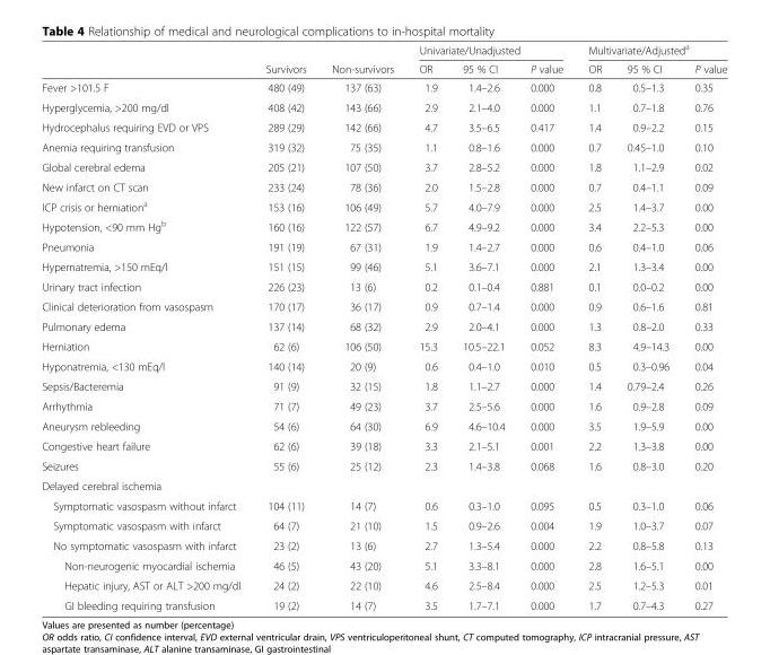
<table><thead><tr><td rowspan="2"></td><td rowspan="2">Survivors</td><td rowspan="2">Non-survivors</td><td colspan="3">Univariate/Unadjusted</td><td colspan="3">Multivariate/Adjusted<sup>a</sup></td></tr><tr><td>OR</td><td>95 % CI</td><td>P value</td><td>OR</td><td>95 % CI</td><td>P value</td></tr></thead><tbody><tr><td>Fever &gt;101.5 F</td><td>480 (49)</td><td>137 (63)</td><td>1.9</td><td>1.4–2.6</td><td>0.000</td><td>0.8</td><td>0.5–1.3</td><td>0.35</td></tr><tr><td>Hyperglycemia, &gt;200 mg/dl</td><td>408 (42)</td><td>143 (66)</td><td>2.9</td><td>2.1–4.0</td><td>0.000</td><td>1.1</td><td>0.7–1.8</td><td>0.76</td></tr><tr><td>Hydrocephalus requiring EVD or VPS</td><td>289 (29)</td><td>142 (66)</td><td>4.7</td><td>3.5–6.5</td><td>0.417</td><td>1.4</td><td>0.9–2.2</td><td>0.15</td></tr><tr><td>Anemia requiring transfusion</td><td>319 (32)</td><td>75 (35)</td><td>1.1</td><td>0.8–1.6</td><td>0.000</td><td>0.7</td><td>0.45–1.0</td><td>0.10</td></tr><tr><td>Global cerebral edema</td><td>205 (21)</td><td>107 (50)</td><td>3.7</td><td>2.8–5.2</td><td>0.000</td><td>1.8</td><td>1.1–2.9</td><td>0.02</td></tr><tr><td>New infarct on CT scan</td><td>233 (24)</td><td>78 (36)</td><td>2.0</td><td>1.5–2.8</td><td>0.000</td><td>0.7</td><td>0.4–1.1</td><td>0.09</td></tr><tr><td>ICP crisis or herniation<sup>a</sup></td><td>153 (16)</td><td>106 (49)</td><td>5.7</td><td>4.0–7.9</td><td>0.000</td><td>2.5</td><td>1.4–3.7</td><td>0.00</td></tr><tr><td>Hypotension, &lt;90 mm Hg<sup>b</sup></td><td>160 (16)</td><td>122 (57)</td><td>6.7</td><td>4.9–9.2</td><td>0.000</td><td>3.4</td><td>2.2–5.3</td><td>0.00</td></tr><tr><td>Pneumonia</td><td>191 (19)</td><td>67 (31)</td><td>1.9</td><td>1.4–2.7</td><td>0.000</td><td>0.6</td><td>0.4–1.0</td><td>0.06</td></tr><tr><td>Hypernatremia, &gt;150 mEq/l</td><td>151 (15)</td><td>99 (46)</td><td>5.1</td><td>3.6–7.1</td><td>0.000</td><td>2.1</td><td>1.3–3.4</td><td>0.00</td></tr><tr><td>Urinary tract infection</td><td>226 (23)</td><td>13 (6)</td><td>0.2</td><td>0.1–0.4</td><td>0.881</td><td>0.1</td><td>0.0–0.2</td><td>0.00</td></tr><tr><td>Clinical deterioration from vasospasm</td><td>170 (17)</td><td>36 (17)</td><td>0.9</td><td>0.7–1.4</td><td>0.000</td><td>0.9</td><td>0.6–1.6</td><td>0.81</td></tr><tr><td>Pulmonary edema</td><td>137 (14)</td><td>68 (32)</td><td>2.9</td><td>2.0–4.1</td><td>0.000</td><td>1.3</td><td>0.8–2.0</td><td>0.33</td></tr><tr><td>Herniation</td><td>62 (6)</td><td>106 (50)</td><td>15.3</td><td>10.5–22.1</td><td>0.052</td><td>8.3</td><td>4.9–14.3</td><td>0.00</td></tr><tr><td>Hyponatremia, &lt;130 mEq/l</td><td>140 (14)</td><td>20 (9)</td><td>0.6</td><td>0.4–1.0</td><td>0.010</td><td>0.5</td><td>0.3–0.96</td><td>0.04</td></tr><tr><td>Sepsis/Bacteremia</td><td>91 (9)</td><td>32 (15)</td><td>1.8</td><td>1.1–2.7</td><td>0.000</td><td>1.4</td><td>0.79–2.4</td><td>0.26</td></tr><tr><td>Arrhythmia</td><td>71 (7)</td><td>49 (23)</td><td>3.7</td><td>2.5–5.6</td><td>0.000</td><td>1.6</td><td>0.9–2.8</td><td>0.09</td></tr><tr><td>Aneurysm rebleeding</td><td>54 (6)</td><td>64 (30)</td><td>6.9</td><td>4.6–10.4</td><td>0.000</td><td>3.5</td><td>1.9–5.9</td><td>0.00</td></tr><tr><td>Congestive heart failure</td><td>62 (6)</td><td>39 (18)</td><td>3.3</td><td>2.1–5.1</td><td>0.001</td><td>2.2</td><td>1.3–3.8</td><td>0.00</td></tr><tr><td>Seizures</td><td>55 (6)</td><td>25 (12)</td><td>2.3</td><td>1.4–3.8</td><td>0.068</td><td>1.6</td><td>0.8–3.0</td><td>0.20</td></tr><tr><td colspan="9">Delayed cerebral ischemia</td></tr><tr><td>Symptomatic vasospasm without infarct</td><td>104 (11)</td><td>14 (7)</td><td>0.6</td><td>0.3–1.0</td><td>0.095</td><td>0.5</td><td>0.3–1.0</td><td>0.06</td></tr><tr><td>Symptomatic vasospasm with infarct</td><td>64 (7)</td><td>21 (10)</td><td>1.5</td><td>0.9–2.6</td><td>0.004</td><td>1.9</td><td>1.0–3.7</td><td>0.07</td></tr><tr><td>No symptomatic vasospasm with infarct</td><td>23 (2)</td><td>13 (6)</td><td>2.7</td><td>1.3–5.4</td><td>0.000</td><td>2.2</td><td>0.8–5.8</td><td>0.13</td></tr><tr><td>Non-neurogenic myocardial ischemia</td><td>46 (5)</td><td>43 (20)</td><td>5.1</td><td>3.3–8.1</td><td>0.000</td><td>2.8</td><td>1.6–5.1</td><td>0.00</td></tr><tr><td>Hepatic injury, AST or ALT &gt;200 mg/dl</td><td>24 (2)</td><td>22 (10)</td><td>4.6</td><td>2.5–8.4</td><td>0.000</td><td>2.5</td><td>1.2–5.3</td><td>0.01</td></tr><tr><td>GI bleeding requiring transfusion</td><td>19 (2)</td><td>14 (7)</td><td>3.5</td><td>1.7–7.1</td><td>0.000</td><td>1.7</td><td>0.7–4.3</td><td>0.27</td></tr></tbody></table>